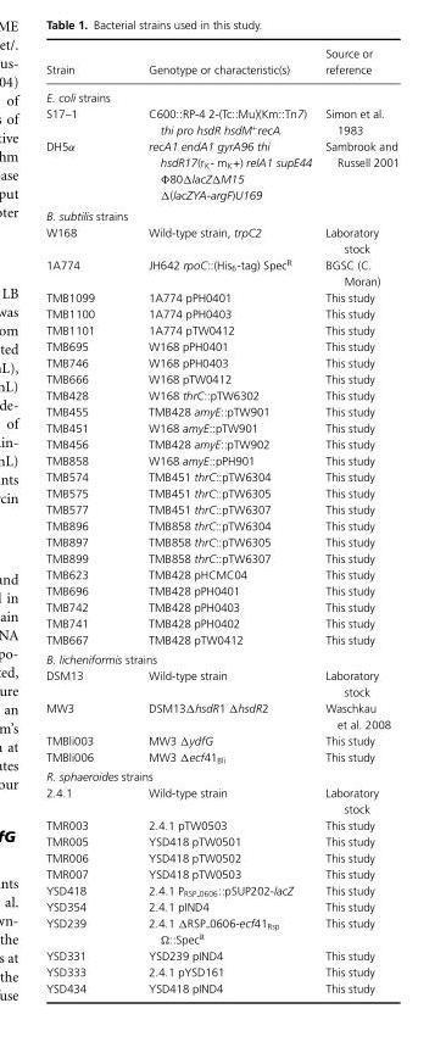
<table><thead><tr><td>Strain</td><td>Genotype or characteristic(s)</td><td>Source or reference</td></tr></thead><tbody><tr><td colspan="3">E. coli strains</td></tr><tr><td>S17–1</td><td>C600::RP-4 2-(Tc::Mu)(Km::Tn7) thi pro hsdR hsdM<sup>+</sup>recA</td><td>Simon et al. 1983</td></tr><tr><td>DH5α</td><td>recA1 endA1 gyrA96 thi hsdR17(r<sub>K</sub>- m<sub>K</sub>+) relA1 supE44 Φ80ΔlacZΔM15 Δ(lacZYA-argF)U169</td><td>Sambrook and Russell 2001</td></tr><tr><td colspan="3">B. subtilis strains</td></tr><tr><td>W168</td><td>Wild-type strain, trpC2</td><td>Laboratory stock</td></tr><tr><td>1A774</td><td>JH642 rpoC::(His<sub>6</sub>-tag) Spec<sup>R</sup></td><td>BGSC (C. Moran)</td></tr><tr><td>TMB1099</td><td>1A774 pPH0401</td><td>This study</td></tr><tr><td>TMB1100</td><td>1A774 pPH0403</td><td>This study</td></tr><tr><td>TMB1101</td><td>1A774 pTW0412</td><td>This study</td></tr><tr><td>TMB695</td><td>W168 pPH0401</td><td>This study</td></tr><tr><td>TMB746</td><td>W168 pPH0403</td><td>This study</td></tr><tr><td>TMB666</td><td>W168 pTW0412</td><td>This study</td></tr><tr><td>TMB428</td><td>W168 thrC::pTW6302</td><td>This study</td></tr><tr><td>TMB455</td><td>TMB428 amyE::pTW901</td><td>This study</td></tr><tr><td>TMB451</td><td>W168 amyE::pTW901</td><td>This study</td></tr><tr><td>TMB456</td><td>TMB428 amyE::pTW902</td><td>This study</td></tr><tr><td>TMB858</td><td>W168 amyE::pPH901</td><td>This study</td></tr><tr><td>TMB574</td><td>TMB451 thrC::pTW6304</td><td>This study</td></tr><tr><td>TMB575</td><td>TMB451 thrC::pTW6305</td><td>This study</td></tr><tr><td>TMB577</td><td>TMB451 thrC::pTW6307</td><td>This study</td></tr><tr><td>TMB896</td><td>TMB858 thrC::pTW6304</td><td>This study</td></tr><tr><td>TMB897</td><td>TMB858 thrC::pTW6305</td><td>This study</td></tr><tr><td>TMB899</td><td>TMB858 thrC::pTW6307</td><td>This study</td></tr><tr><td>TMB623</td><td>TMB428 pHCMC04</td><td>This study</td></tr><tr><td>TMB696</td><td>TMB428 pPH0401</td><td>This study</td></tr><tr><td>TMB742</td><td>TMB428 pPH0403</td><td>This study</td></tr><tr><td>TMB741</td><td>TMB428 pPH0402</td><td>This study</td></tr><tr><td>TMB667</td><td>TMB428 pTW0412</td><td>This study</td></tr><tr><td colspan="3">B. licheniformis strains</td></tr><tr><td>DSM13</td><td>Wild-type strain</td><td>Laboratory stock</td></tr><tr><td>MW3</td><td>DSM13ΔhsdR1 ΔhsdR2</td><td>Waschkau et al. 2008</td></tr><tr><td>TMBli003</td><td>MW3 ΔydfG</td><td>This study</td></tr><tr><td>TMBli006</td><td>MW3 Δecf41<sub>Bli</sub></td><td>This study</td></tr><tr><td colspan="3">R. sphaeroides strains</td></tr><tr><td>2.4.1</td><td>Wild-type strain</td><td>Laboratory stock</td></tr><tr><td>TMR003</td><td>2.4.1 pTW0503</td><td>This study</td></tr><tr><td>TMR005</td><td>YSD418 pTW0501</td><td>This study</td></tr><tr><td>TMR006</td><td>YSD418 pTW0502</td><td>This study</td></tr><tr><td>TMR007</td><td>YSD418 pTW0503</td><td>This study</td></tr><tr><td>YSD418</td><td>2.4.1 PRSP 0606::pSUP202-lacZ</td><td>This study</td></tr><tr><td>YSD354</td><td>2.4.1 pIND4</td><td>This study</td></tr><tr><td>YSD239</td><td>2.4.1 �RSP 0606-ecf41Rsp �::SpecR</td><td>This study</td></tr><tr><td>YSD331</td><td>YSD239 pIND4</td><td>This study</td></tr><tr><td>YSD333</td><td>2.4.1 pYSD161</td><td>This study</td></tr><tr><td>YSD434</td><td>YSD418 pIND4</td><td>This study</td></tr></tbody></table>